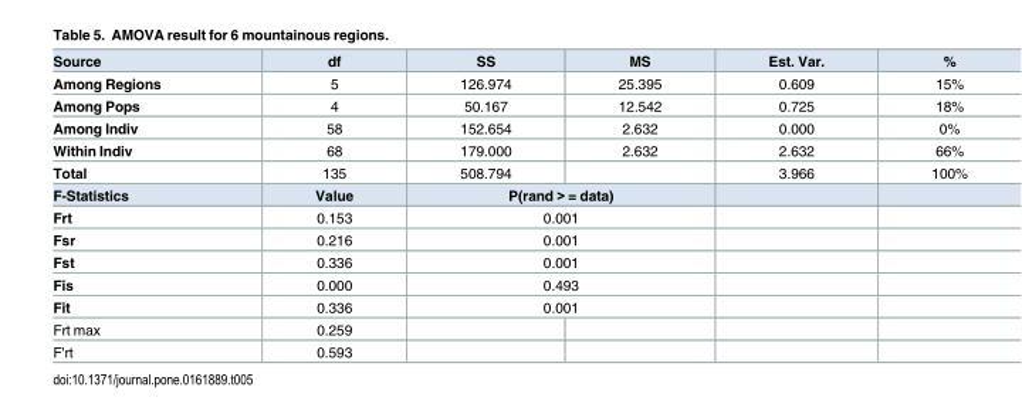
<table><tbody><tr><td>Source</td><td>df</td><td>SS</td><td>MS</td><td>Est. Var.</td><td>%</td></tr><tr><td>Among Regions</td><td>5</td><td>126.974</td><td>25.395</td><td>0.609</td><td>15%</td></tr><tr><td>Among Pops</td><td>4</td><td>50.167</td><td>12.542</td><td>0.725</td><td>18%</td></tr><tr><td>Among Indiv</td><td>58</td><td>152.654</td><td>2.632</td><td>0.000</td><td>0%</td></tr><tr><td>Within Indiv</td><td>68</td><td>179.000</td><td>2.632</td><td>2.632</td><td>66%</td></tr><tr><td>Total</td><td>135</td><td>508.794</td><td></td><td>3.966</td><td>100%</td></tr><tr><td>F-Statistics</td><td>Value</td><td colspan="2">P(rand &gt; = data)</td><td></td><td></td></tr><tr><td>Frt</td><td>0.153</td><td colspan="2">0.001</td><td></td><td></td></tr><tr><td>Fsr</td><td>0.216</td><td colspan="2">0.001</td><td></td><td></td></tr><tr><td>Fst</td><td>0.336</td><td colspan="2">0.001</td><td></td><td></td></tr><tr><td>Fis</td><td>0.000</td><td colspan="2">0.493</td><td></td><td></td></tr><tr><td>Fit</td><td>0.336</td><td colspan="2">0.001</td><td></td><td></td></tr><tr><td>Frt max</td><td>0.259</td><td></td><td></td><td></td><td></td></tr><tr><td>F&#x27;rt</td><td>0.593</td><td></td><td></td><td></td><td></td></tr></tbody></table>